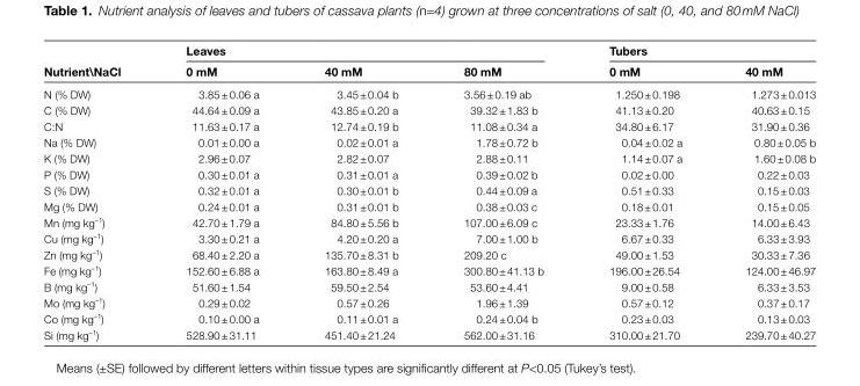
<table><thead><tr><td rowspan="2">Nutrient\NaCl</td><td colspan="3">Leaves</td><td colspan="2">Tubers</td></tr><tr><td>0 mM</td><td>40 mM</td><td>80 mM</td><td>0 mM</td><td>40 mM</td></tr></thead><tbody><tr><td>N (% DW)</td><td>3.85 ± 0.06 a</td><td>3.45 ± 0.04 b</td><td>3.56 ± 0.19 ab</td><td>1.250 ± 0.198</td><td>1.273 ± 0.013</td></tr><tr><td>C (% DW)</td><td>44.64 ± 0.09 a</td><td>43.85 ± 0.20 a</td><td>39.32 ± 1.83 b</td><td>41.13 ± 0.20</td><td>40.63 ± 0.15</td></tr><tr><td>C:N</td><td>11.63 ± 0.17 a</td><td>12.74 ± 0.19 b</td><td>11.08 ± 0.34 a</td><td>34.80 ± 6.17</td><td>31.90 ± 0.36</td></tr><tr><td>Na (% DW)</td><td>0.01 ± 0.00 a</td><td>0.02 ± 0.01 a</td><td>1.78 ± 0.72 b</td><td>0.04 ± 0.02 a</td><td>0.80 ± 0.05 b</td></tr><tr><td>K (% DW)</td><td>2.96 ± 0.07</td><td>2.82 ± 0.07</td><td>2.88 ± 0.11</td><td>1.14 ± 0.07 a</td><td>1.60 ± 0.08 b</td></tr><tr><td>P (% DW)</td><td>0.30 ± 0.01 a</td><td>0.31 ± 0.01 a</td><td>0.39 ± 0.02 b</td><td>0.02 ± 0.00</td><td>0.22 ± 0.03</td></tr><tr><td>S (% DW)</td><td>0.32 ± 0.01 a</td><td>0.30 ± 0.01 b</td><td>0.44 ± 0.09 a</td><td>0.51 ± 0.33</td><td>0.15 ± 0.03</td></tr><tr><td>Mg (% DW)</td><td>0.24 ± 0.01 a</td><td>0.31 ± 0.01 b</td><td>0.38 ± 0.03 c</td><td>0.18 ± 0.01</td><td>0.15 ± 0.05</td></tr><tr><td>Mn (mg kg<sup>–1</sup>)</td><td>42.70 ± 1.79 a</td><td>84.80 ± 5.56 b</td><td>107.00 ± 6.09 c</td><td>23.33 ± 1.76</td><td>14.00 ± 6.43</td></tr><tr><td>Cu (mg kg<sup>–1</sup>)</td><td>3.30 ± 0.21 a</td><td>4.20 ± 0.20 a</td><td>7.00 ± 1.00 b</td><td>6.67 ± 0.33</td><td>6.33 ± 3.93</td></tr><tr><td>Zn (mg kg<sup>–1</sup>)</td><td>68.40 ± 2.20 a</td><td>135.70 ± 8.31 b</td><td>209.20 c</td><td>49.00 ± 1.53</td><td>30.33 ± 7.36</td></tr><tr><td>Fe (mg kg<sup>–1</sup>)</td><td>152.60 ± 6.88 a</td><td>163.80 ± 8.49 a</td><td>300.80 ± 41.13 b</td><td>196.00 ± 26.54</td><td>124.00 ± 46.97</td></tr><tr><td>B (mg kg<sup>–1</sup>)</td><td>51.60 ± 1.54</td><td>59.50 ± 2.54</td><td>53.60 ± 4.41</td><td>9.00 ± 0.58</td><td>6.33 ± 3.53</td></tr><tr><td>Mo (mg kg<sup>–1</sup>)</td><td>0.29 ± 0.02</td><td>0.57 ± 0.26</td><td>1.96 ± 1.39</td><td>0.57 ± 0.12</td><td>0.37 ± 0.17</td></tr><tr><td>Co (mg kg<sup>–1</sup>)</td><td>0.10 ± 0.00 a</td><td>0.11 ± 0.01 a</td><td>0.24 ± 0.04 b</td><td>0.23 ± 0.03</td><td>0.13 ± 0.03</td></tr><tr><td>Si (mg kg<sup>–1</sup>)</td><td>528.90 ± 31.11</td><td>451.40 ± 21.24</td><td>562.00 ± 31.16</td><td>310.00 ± 21.70</td><td>239.70 ± 40.27</td></tr></tbody></table>